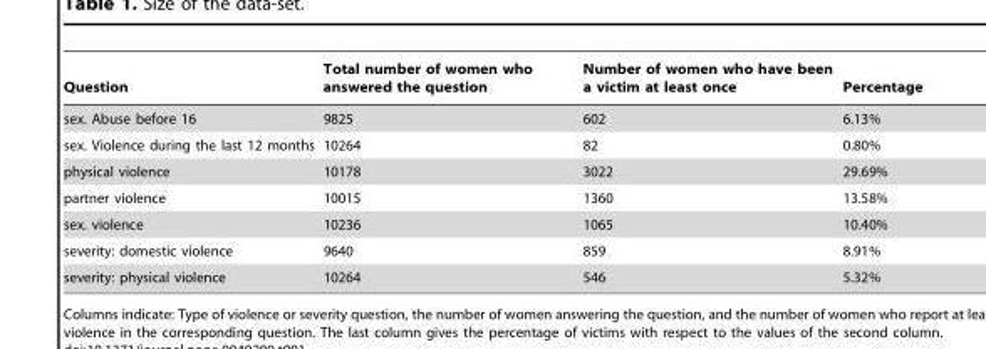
<table><thead><tr><td>Question</td><td>Total number of women who answered the question</td><td>Number of women who have been a victim at least once</td><td>Percentage</td></tr></thead><tbody><tr><td>sex. Abuse before 16</td><td>9825</td><td>602</td><td>6.13%</td></tr><tr><td>sex. Violence during the last 12 months</td><td>10264</td><td>82</td><td>0.80%</td></tr><tr><td>physical violence</td><td>10178</td><td>3022</td><td>29.69%</td></tr><tr><td>partner violence</td><td>10015</td><td>1360</td><td>13.58%</td></tr><tr><td>sex. violence</td><td>10236</td><td>1065</td><td>10.40%</td></tr><tr><td>severity: domestic violence</td><td>9640</td><td>859</td><td>8.91%</td></tr><tr><td>severity: physical violence</td><td>10264</td><td>546</td><td>5.32%</td></tr></tbody></table>